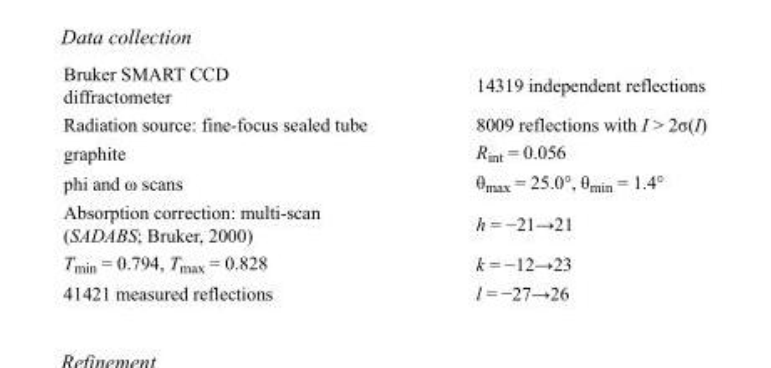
<table><tbody><tr><td>Bruker SMART CCD diffractometer</td><td>14319 independent reflections</td></tr><tr><td>Radiation source: fine-focus sealed tube</td><td>8009 reflections with I &gt; 2σ(I)</td></tr><tr><td>graphite</td><td>R<sub>int</sub> = 0.056</td></tr><tr><td>phi and ω scans</td><td>θ<sub>max</sub> = 25.0°, θ<sub>min</sub> = 1.4°</td></tr><tr><td>Absorption correction: multi-scan (SADABS; Bruker, 2000)</td><td>h = −21→21</td></tr><tr><td>T<sub>min</sub> = 0.794, T<sub>max</sub> = 0.828</td><td>k = −12→23</td></tr><tr><td>41421 measured reflections</td><td>l = −27→26</td></tr></tbody></table>